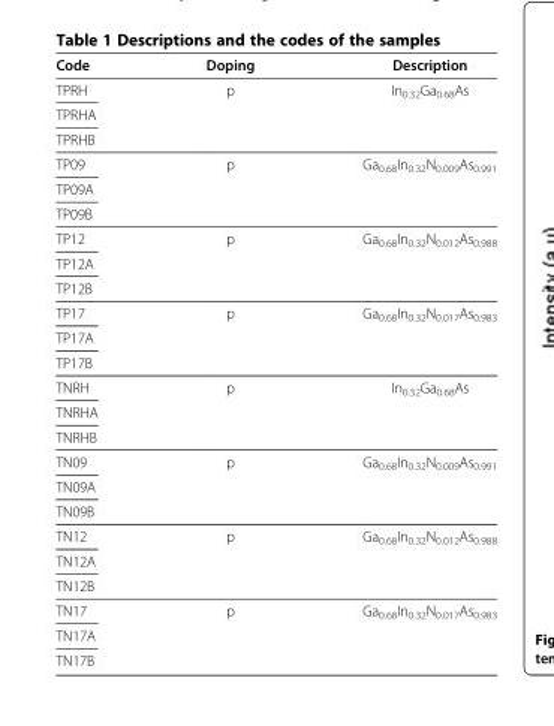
<table><thead><tr><td>Code</td><td>Doping</td><td>Description</td></tr></thead><tbody><tr><td>TPRH</td><td rowspan="3">p</td><td rowspan="3">In<sub>0.32</sub>Ga<sub>0.68</sub>As</td></tr><tr><td>TPRHA</td></tr><tr><td>TPRHB</td></tr><tr><td>TP09</td><td rowspan="3">p</td><td rowspan="3">Ga<sub>0.68</sub>In<sub>0.32</sub>N<sub>0.009</sub>As<sub>0.991</sub></td></tr><tr><td>TP09A</td></tr><tr><td>TP09B</td></tr><tr><td>TP12</td><td rowspan="3">p</td><td rowspan="3">Ga<sub>0.68</sub>In<sub>0.32</sub>N<sub>0.012</sub>As<sub>0.988</sub></td></tr><tr><td>TP12A</td></tr><tr><td>TP12B</td></tr><tr><td>TP17</td><td rowspan="3">p</td><td rowspan="3">Ga<sub>0.68</sub>In<sub>0.32</sub>N<sub>0.017</sub>As<sub>0.983</sub></td></tr><tr><td>TP17A</td></tr><tr><td>TP17B</td></tr><tr><td>TNRH</td><td rowspan="3">p</td><td rowspan="3">In<sub>0.32</sub>Ga<sub>0.68</sub>As</td></tr><tr><td>TNRHA</td></tr><tr><td>TNRHB</td></tr><tr><td>TN09</td><td rowspan="3">p</td><td rowspan="3">Ga<sub>0.68</sub>In<sub>0.32</sub>N<sub>0.009</sub>As<sub>0.991</sub></td></tr><tr><td>TN09A</td></tr><tr><td>TN09B</td></tr><tr><td>TN12</td><td rowspan="3">p</td><td rowspan="3">Ga<sub>0.68</sub>In<sub>0.32</sub>N<sub>0.012</sub>As<sub>0.988</sub></td></tr><tr><td>TN12A</td></tr><tr><td>TN12B</td></tr><tr><td>TN17</td><td rowspan="3">p</td><td rowspan="3">Ga<sub>0.68</sub>In<sub>0.32</sub>N<sub>0.017</sub>As<sub>0.983</sub></td></tr><tr><td>TN17A</td></tr><tr><td>TN17B</td></tr></tbody></table>